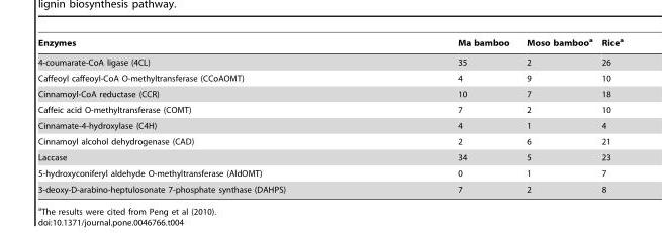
<table><thead><tr><td>Enzymes</td><td>Ma bamboo</td><td>Moso bamboo<sup>a</sup></td><td>Rice<sup>a</sup></td></tr></thead><tbody><tr><td>4-coumarate-CoA ligase (4CL)</td><td>35</td><td>2</td><td>26</td></tr><tr><td>Caffeoyl caffeoyl-CoA O-methyltransferase (CCoAOMT)</td><td>4</td><td>9</td><td>10</td></tr><tr><td>Cinnamoyl-CoA reductase (CCR)</td><td>10</td><td>7</td><td>18</td></tr><tr><td>Caffeic acid O-methyltransferase (COMT)</td><td>7</td><td>2</td><td>10</td></tr><tr><td>Cinnamate-4-hydroxylase (C4H)</td><td>4</td><td>1</td><td>4</td></tr><tr><td>Cinnamoyl alcohol dehydrogenase (CAD)</td><td>2</td><td>6</td><td>21</td></tr><tr><td>Laccase</td><td>34</td><td>5</td><td>23</td></tr><tr><td>5-hydroxyconiferyl aldehyde O-methyltransferase (AldOMT)</td><td>0</td><td>1</td><td>7</td></tr><tr><td>3-deoxy-D-arabino-heptulosonate 7-phosphate synthase (DAHPS)</td><td>7</td><td>2</td><td>8</td></tr></tbody></table>